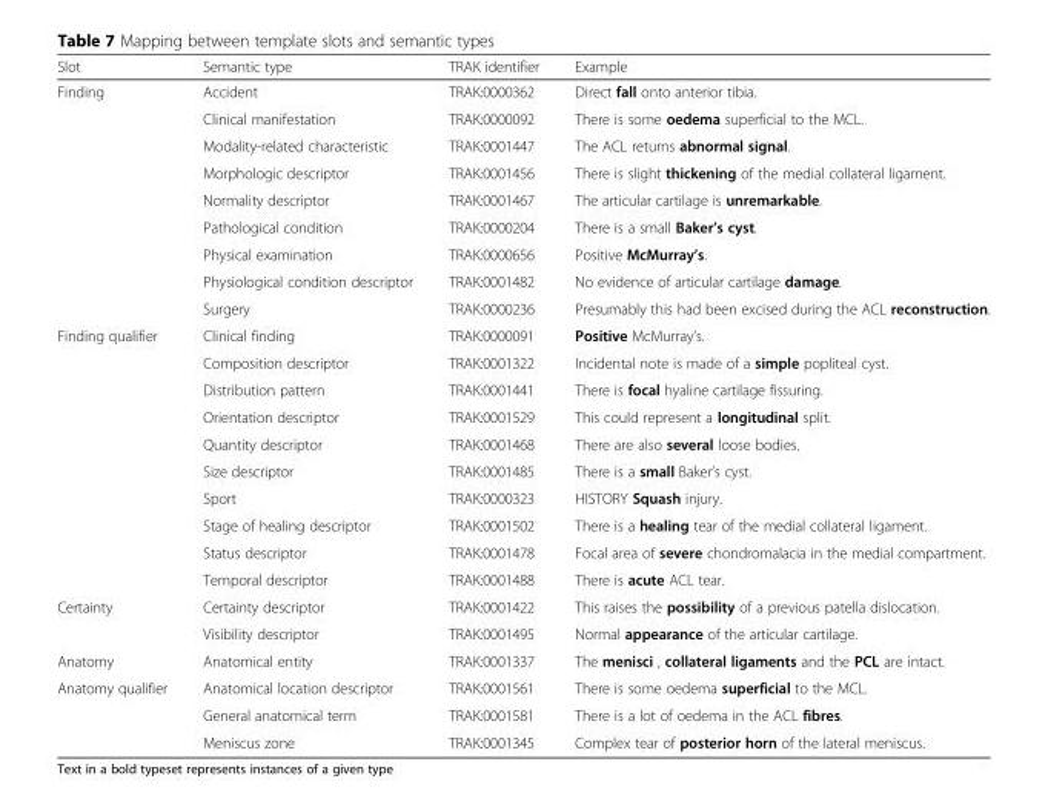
<table><thead><tr><td>Slot</td><td>Semantic type</td><td>TRAK identifier</td><td>Example</td></tr></thead><tbody><tr><td rowspan="9">Finding</td><td>Accident</td><td>TRAK:0000362</td><td>Direct fall onto anterior tibia.</td></tr><tr><td>Clinical manifestation</td><td>TRAK:0000092</td><td>There is some oedema superficial to the MCL.</td></tr><tr><td>Modality-related characteristic</td><td>TRAK:0001447</td><td>The ACL returns abnormal signal.</td></tr><tr><td>Morphologic descriptor</td><td>TRAK:0001456</td><td>There is slight thickening of the medial collateral ligament.</td></tr><tr><td>Normality descriptor</td><td>TRAK:0001467</td><td>The articular cartilage is unremarkable.</td></tr><tr><td>Pathological condition</td><td>TRAK:0000204</td><td>There is a small Baker’s cyst.</td></tr><tr><td>Physical examination</td><td>TRAK:0000656</td><td>Positive McMurray’s.</td></tr><tr><td>Physiological condition descriptor</td><td>TRAK:0001482</td><td>No evidence of articular cartilage damage.</td></tr><tr><td>Surgery</td><td>TRAK:0000236</td><td>Presumably this had been excised during the ACL reconstruction.</td></tr><tr><td rowspan="10">Finding qualifier</td><td>Clinical finding</td><td>TRAK:0000091</td><td>Positive McMurray’s.</td></tr><tr><td>Composition descriptor</td><td>TRAK:0001322</td><td>Incidental note is made of a simple popliteal cyst.</td></tr><tr><td>Distribution pattern</td><td>TRAK:0001441</td><td>There is focal hyaline cartilage fissuring.</td></tr><tr><td>Orientation descriptor</td><td>TRAK:0001529</td><td>This could represent a longitudinal split.</td></tr><tr><td>Quantity descriptor</td><td>TRAK:0001468</td><td>There are also several loose bodies.</td></tr><tr><td>Size descriptor</td><td>TRAK:0001485</td><td>There is a small Baker’s cyst.</td></tr><tr><td>Sport</td><td>TRAK:0000323</td><td>HISTORY Squash injury.</td></tr><tr><td>Stage of healing descriptor</td><td>TRAK:0001502</td><td>There is a healing tear of the medial collateral ligament.</td></tr><tr><td>Status descriptor</td><td>TRAK:0001478</td><td>Focal area of severe chondromalacia in the medial compartment.</td></tr><tr><td>Temporal descriptor</td><td>TRAK:0001488</td><td>There is acute ACL tear.</td></tr><tr><td rowspan="2">Certainty</td><td>Certainty descriptor</td><td>TRAK:0001422</td><td>This raises the possibility of a previous patella dislocation.</td></tr><tr><td>Visibility descriptor</td><td>TRAK:0001495</td><td>Normal appearance of the articular cartilage.</td></tr><tr><td>Anatomy</td><td>Anatomical entity</td><td>TRAK:0001337</td><td>The menisci , collateral ligaments and the PCL are intact.</td></tr><tr><td rowspan="3">Anatomy qualifier</td><td>Anatomical location descriptor</td><td>TRAK:0001561</td><td>There is some oedema superficial to the MCL.</td></tr><tr><td>General anatomical term</td><td>TRAK:0001581</td><td>There is a lot of oedema in the ACL fibres.</td></tr><tr><td>Meniscus zone</td><td>TRAK:0001345</td><td>Complex tear of posterior horn of the lateral meniscus.</td></tr></tbody></table>